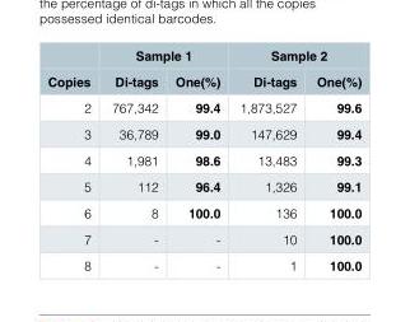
<table><thead><tr><td rowspan="2">Copies</td><td colspan="2">Sample 1</td><td colspan="2">Sample 2</td></tr><tr><td>Di-tags</td><td>One(%)</td><td>Di-tags</td><td>One(%)</td></tr></thead><tbody><tr><td>2</td><td>767,342</td><td>99.4</td><td>1,873,527</td><td>99.6</td></tr><tr><td>3</td><td>36,789</td><td>99.0</td><td>147,629</td><td>99.4</td></tr><tr><td>4</td><td>1,981</td><td>98.6</td><td>13,483</td><td>99.3</td></tr><tr><td>5</td><td>112</td><td>96.4</td><td>1,326</td><td>99.1</td></tr><tr><td>6</td><td>8</td><td>100.0</td><td>136</td><td>100.0</td></tr><tr><td>7</td><td>-</td><td>-</td><td>10</td><td>100.0</td></tr><tr><td>8</td><td>-</td><td>-</td><td>1</td><td>100.0</td></tr></tbody></table>